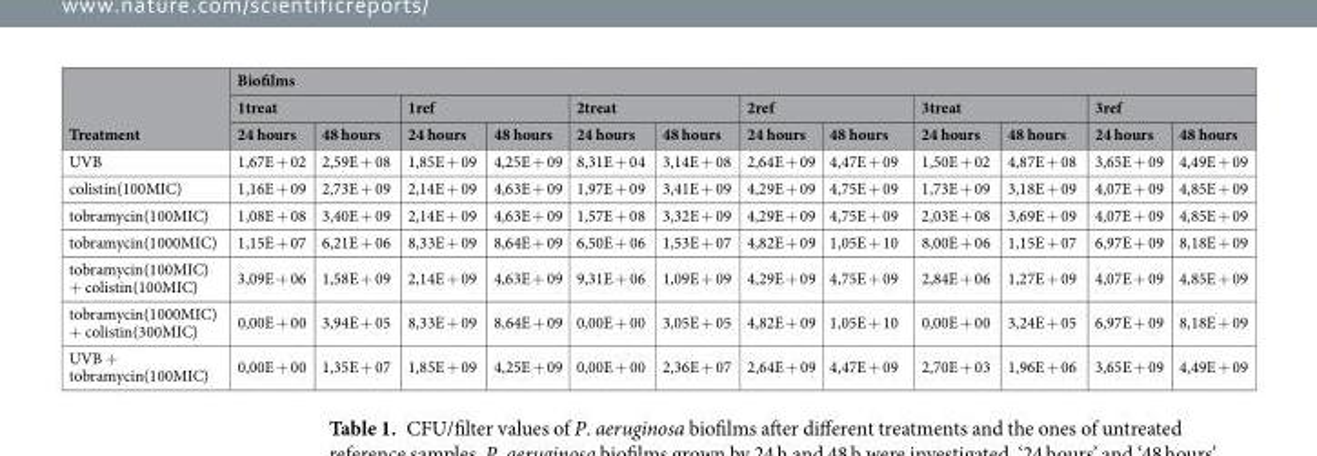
<table><thead><tr><td rowspan="3">Treatment</td><td colspan="12">Biofilms</td></tr><tr><td colspan="2">1treat</td><td colspan="2">1ref</td><td colspan="2">2treat</td><td colspan="2">2ref</td><td colspan="2">3treat</td><td colspan="2">3ref</td></tr><tr><td>24 hours</td><td>48 hours</td><td>24 hours</td><td>48 hours</td><td>24 hours</td><td>48 hours</td><td>24 hours</td><td>48 hours</td><td>24 hours</td><td>48 hours</td><td>24 hours</td><td>48 hours</td></tr></thead><tbody><tr><td>UVB</td><td>1,67E + 02</td><td>2,59E + 08</td><td>1,85E + 09</td><td>4,25E + 09</td><td>8,31E + 04</td><td>3,14E + 08</td><td>2,64E + 09</td><td>4,47E + 09</td><td>1,50E + 02</td><td>4,87E + 08</td><td>3,65E + 09</td><td>4,49E + 09</td></tr><tr><td>colistin(100MIC)</td><td>1,16E + 09</td><td>2,73E + 09</td><td>2,14E + 09</td><td>4,63E + 09</td><td>1,97E + 09</td><td>3,41E + 09</td><td>4,29E + 09</td><td>4,75E + 09</td><td>1,73E + 09</td><td>3,18E + 09</td><td>4,07E + 09</td><td>4,85E + 09</td></tr><tr><td>tobramycin(100MIC)</td><td>1,08E + 08</td><td>3,40E + 09</td><td>2,14E + 09</td><td>4,63E + 09</td><td>1,57E + 08</td><td>3,32E + 09</td><td>4,29E + 09</td><td>4,75E + 09</td><td>2,03E + 08</td><td>3,69E + 09</td><td>4,07E + 09</td><td>4,85E + 09</td></tr><tr><td>tobramycin(1000MIC)</td><td>1,15E + 07</td><td>6,21E + 06</td><td>8,33E + 09</td><td>8,64E + 09</td><td>6,50E + 06</td><td>1,53E + 07</td><td>4,82E + 09</td><td>1,05E + 10</td><td>8,00E + 06</td><td>1,15E + 07</td><td>6,97E + 09</td><td>8,18E + 09</td></tr><tr><td>tobramycin(100MIC) + colistin(100MIC)</td><td>3,09E + 06</td><td>1,58E + 09</td><td>2,14E + 09</td><td>4,63E + 09</td><td>9,31E + 06</td><td>1,09E + 09</td><td>4,29E + 09</td><td>4,75E + 09</td><td>2,84E + 06</td><td>1,27E + 09</td><td>4,07E + 09</td><td>4,85E + 09</td></tr><tr><td>tobramycin(1000MIC) + colistin(300MIC)</td><td>0,00E + 00</td><td>3,94E + 05</td><td>8,33E + 09</td><td>8,64E + 09</td><td>0,00E + 00</td><td>3,05E + 05</td><td>4,82E + 09</td><td>1,05E + 10</td><td>0,00E + 00</td><td>3,24E + 05</td><td>6,97E + 09</td><td>8,18E + 09</td></tr><tr><td>UVB + tobramycin(100MIC)</td><td>0,00E + 00</td><td>1,35E + 07</td><td>1,85E + 09</td><td>4,25E + 09</td><td>0,00E + 00</td><td>2,36E + 07</td><td>2,64E + 09</td><td>4,47E + 09</td><td>2,70E + 03</td><td>1,96E + 06</td><td>3,65E + 09</td><td>4,49E + 09</td></tr></tbody></table>